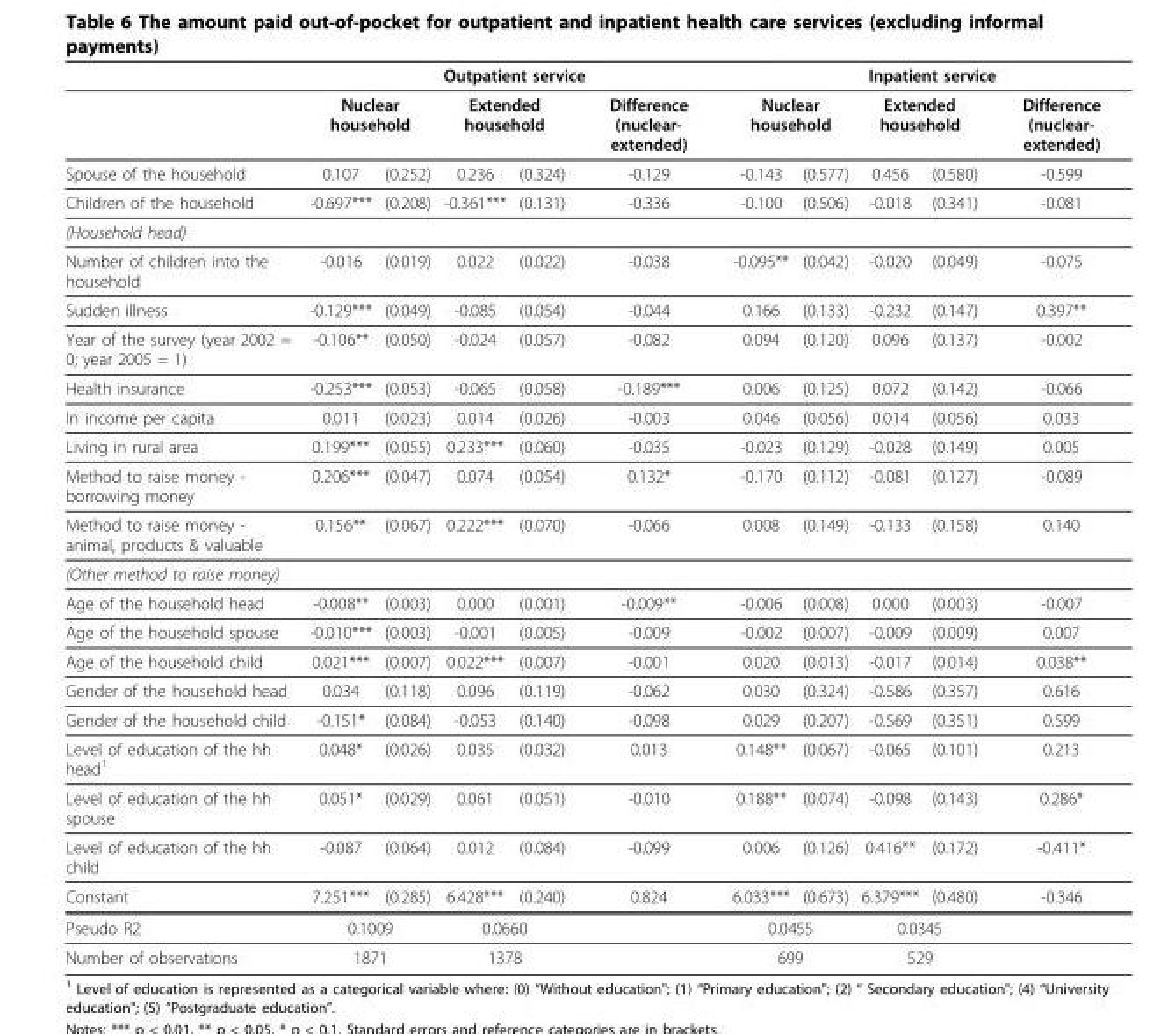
<table><thead><tr><td rowspan="3">Spouse of the household</td><td colspan="5">Outpatient service</td><td colspan="5">Inpatient service</td></tr><tr><td colspan="2">Nuclear household</td><td colspan="2">Extended household</td><td rowspan="2">Difference (nuclear- extended) -0.129</td><td colspan="2">Nuclear household</td><td colspan="2">Extended household</td><td rowspan="2">Difference (nuclear- extended) -0.599</td></tr><tr><td>0.107</td><td>(0.252)</td><td>0.236</td><td>(0.324)</td><td>-0.143</td><td>(0.577)</td><td>0.456</td><td>(0.580)</td></tr></thead><tbody><tr><td>Children of the household</td><td>-0.697***</td><td>(0.208)</td><td>-0.361***</td><td>(0.131)</td><td>-0.336</td><td>-0.100</td><td>(0.506)</td><td>-0.018</td><td>(0.341)</td><td>-0.081</td></tr><tr><td colspan="11">(Household head)</td></tr><tr><td>Number of children into the household</td><td>-0.016</td><td>(0.019)</td><td>0.022</td><td>(0.022)</td><td>-0.038</td><td>-0.095**</td><td>(0.042)</td><td>-0.020</td><td>(0.049)</td><td>-0.075</td></tr><tr><td>Sudden illness</td><td>-0.129***</td><td>(0.049)</td><td>-0.085</td><td>(0.054)</td><td>-0.044</td><td>0.166</td><td>(0.133)</td><td>-0.232</td><td>(0.147)</td><td>0.397**</td></tr><tr><td>Year of the survey (year 2002 = 0; year 2005 = 1)</td><td>-0.106**</td><td>(0.050)</td><td>-0.024</td><td>(0.057)</td><td>-0.082</td><td>0.094</td><td>(0.120)</td><td>0.096</td><td>(0.137)</td><td>-0.002</td></tr><tr><td>Health insurance</td><td>-0.253***</td><td>(0.053)</td><td>-0.065</td><td>(0.058)</td><td>-0.189***</td><td>0.006</td><td>(0.125)</td><td>0.072</td><td>(0.142)</td><td>-0.066</td></tr><tr><td>ln income per capita</td><td>0.011</td><td>(0.023)</td><td>0.014</td><td>(0.026)</td><td>-0.003</td><td>0.046</td><td>(0.056)</td><td>0.014</td><td>(0.056)</td><td>0.033</td></tr><tr><td>Living in rural area</td><td>0.199***</td><td>(0.055)</td><td>0.233***</td><td>(0.060)</td><td>-0.035</td><td>-0.023</td><td>(0.129)</td><td>-0.028</td><td>(0.149)</td><td>0.005</td></tr><tr><td>Method to raise money - borrowing money</td><td>0.206***</td><td>(0.047)</td><td>0.074</td><td>(0.054)</td><td>0.132*</td><td>-0.170</td><td>(0.112)</td><td>-0.081</td><td>(0.127)</td><td>-0.089</td></tr><tr><td>Method to raise money - animal, products &amp; valuable</td><td>0.156**</td><td>(0.067)</td><td>0.222***</td><td>(0.070)</td><td>-0.066</td><td>0.008</td><td>(0.149)</td><td>-0.133</td><td>(0.158)</td><td>0.140</td></tr><tr><td colspan="11">(Other method to raise money)</td></tr><tr><td>Age of the household head</td><td>-0.008**</td><td>(0.003)</td><td>0.000</td><td>(0.001)</td><td>-0.009**</td><td>-0.006</td><td>(0.008)</td><td>0.000</td><td>(0.003)</td><td>-0.007</td></tr><tr><td>Age of the household spouse</td><td>-0.010***</td><td>(0.003)</td><td>-0.001</td><td>(0.005)</td><td>-0.009</td><td>-0.002</td><td>(0.007)</td><td>-0.009</td><td>(0.009)</td><td>0.007</td></tr><tr><td>Age of the household child</td><td>0.021***</td><td>(0.007)</td><td>0.022***</td><td>(0.007)</td><td>-0.001</td><td>0.020</td><td>(0.013)</td><td>-0.017</td><td>(0.014)</td><td>0.038**</td></tr><tr><td>Gender of the household head</td><td>0.034</td><td>(0.118)</td><td>0.096</td><td>(0.119)</td><td>-0.062</td><td>0.030</td><td>(0.324)</td><td>-0.586</td><td>(0.357)</td><td>0.616</td></tr><tr><td>Gender of the household child</td><td>-0.151*</td><td>(0.084)</td><td>-0.053</td><td>(0.140)</td><td>-0.098</td><td>0.029</td><td>(0.207)</td><td>-0.569</td><td>(0.351)</td><td>0.599</td></tr><tr><td>Level of education of the hh head<sup>1</sup></td><td>0.048*</td><td>(0.026)</td><td>0.035</td><td>(0.032)</td><td>0.013</td><td>0.148**</td><td>(0.067)</td><td>-0.065</td><td>(0.101)</td><td>0.213</td></tr><tr><td>Level of education of the hh spouse</td><td>0.051*</td><td>(0.029)</td><td>0.061</td><td>(0.051)</td><td>-0.010</td><td>0.188**</td><td>(0.074)</td><td>-0.098</td><td>(0.143)</td><td>0.286*</td></tr><tr><td>Level of education of the hh child</td><td>-0.087</td><td>(0.064)</td><td>0.012</td><td>(0.084)</td><td>-0.099</td><td>0.006</td><td>(0.126)</td><td>0.416**</td><td>(0.172)</td><td>-0.411*</td></tr><tr><td>Constant</td><td>7.251***</td><td>(0.285)</td><td>6.428***</td><td>(0.240)</td><td>0.824</td><td>6.033***</td><td>(0.673)</td><td>6.379***</td><td>(0.480)</td><td>-0.346</td></tr><tr><td>Pseudo R2</td><td colspan="2">0.1009</td><td colspan="2">0.0660</td><td></td><td colspan="2">0.0455</td><td colspan="2">0.0345</td><td></td></tr><tr><td>Number of observations</td><td colspan="2">1871</td><td colspan="2">1378</td><td></td><td colspan="2">699</td><td colspan="2">529</td><td></td></tr></tbody></table>